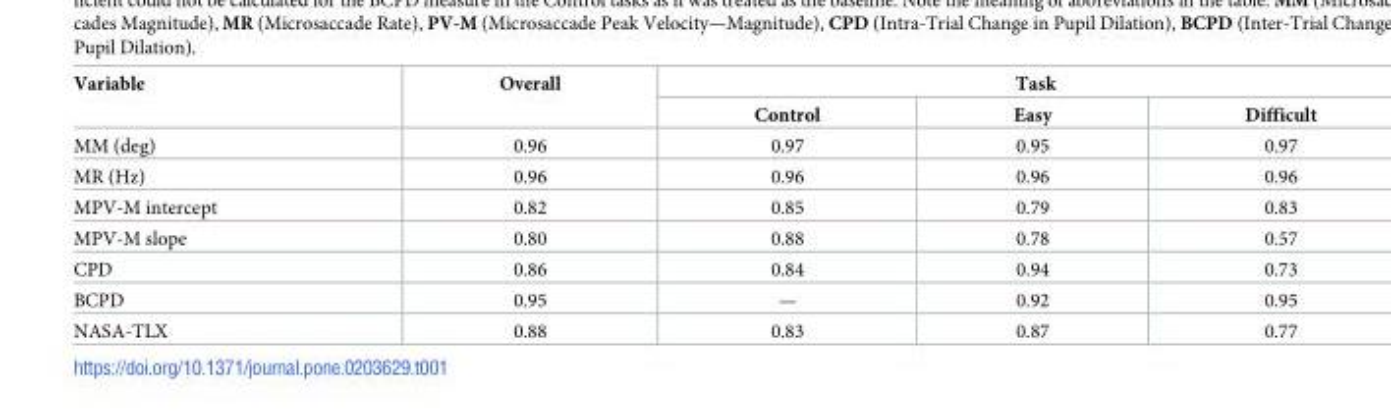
<table><thead><tr><td rowspan="2">Variable</td><td rowspan="2">Overall</td><td colspan="3">Task</td></tr><tr><td>Control</td><td>Easy</td><td>Difficult</td></tr></thead><tbody><tr><td>MM (deg)</td><td>0.96</td><td>0.97</td><td>0.95</td><td>0.97</td></tr><tr><td>MR (Hz)</td><td>0.96</td><td>0.96</td><td>0.96</td><td>0.96</td></tr><tr><td>MPV-M intercept</td><td>0.82</td><td>0.85</td><td>0.79</td><td>0.83</td></tr><tr><td>MPV-M slope</td><td>0.80</td><td>0.88</td><td>0.78</td><td>0.57</td></tr><tr><td>CPD</td><td>0.86</td><td>0.84</td><td>0.94</td><td>0.73</td></tr><tr><td>BCPD</td><td>0.95</td><td>—</td><td>0.92</td><td>0.95</td></tr><tr><td>NASA-TLX</td><td>0.88</td><td>0.83</td><td>0.87</td><td>0.77</td></tr></tbody></table>